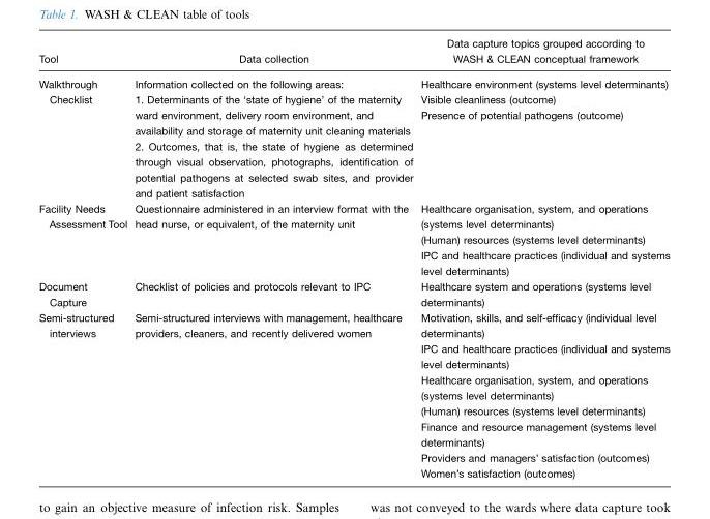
<table><thead><tr><td>Tool</td><td>Data collection</td><td>Data capture topics grouped according to WASH &amp; CLEAN conceptual framework</td></tr></thead><tbody><tr><td>Walkthrough Checklist</td><td>Information collected on the following areas: 1. Determinants of the ‘state of hygiene’ of the maternity ward environment, delivery room environment, and availability and storage of maternity unit cleaning materials 2. Outcomes, that is, the state of hygiene as determined through visual observation, photographs, identification of potential pathogens at selected swab sites, and provider and patient satisfaction</td><td>Healthcare environment (systems level determinants) Visible cleanliness (outcome) Presence of potential pathogens (outcome)</td></tr><tr><td>Facility Needs Assessment Tool</td><td>Questionnaire administered in an interview format with the head nurse, or equivalent, of the maternity unit</td><td>Healthcare organisation, system, and operations (systems level determinants) (Human) resources (systems level determinants) IPC and healthcare practices (individual and systems level determinants)</td></tr><tr><td>Document Capture</td><td>Checklist of policies and protocols relevant to IPC</td><td>Healthcare system and operations (systems level determinants)</td></tr><tr><td>Semi-structured interviews</td><td>Semi-structured interviews with management, healthcare providers, cleaners, and recently delivered women</td><td>Motivation, skills, and self-efficacy (individual level determinants) IPC and healthcare practices (individual and systems level determinants) Healthcare organisation, system, and operations (systems level determinants) (Human) resources (systems level determinants) Finance and resource management (systems level determinants) Providers and managers’ satisfaction (outcomes) Women’s satisfaction (outcomes)</td></tr></tbody></table>